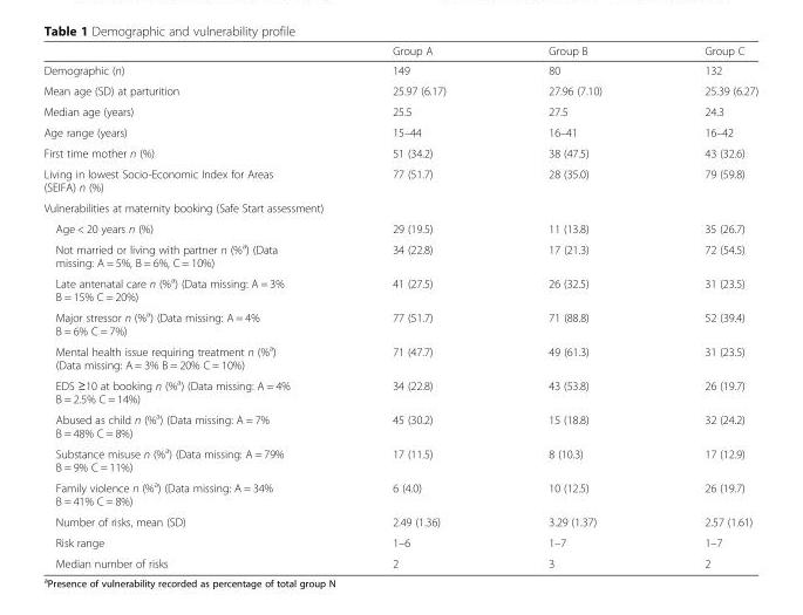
<table><thead><tr><td></td><td>Group A</td><td>Group B</td><td>Group C</td></tr></thead><tbody><tr><td>Demographic (n)</td><td>149</td><td>80</td><td>132</td></tr><tr><td>Mean age (SD) at parturition</td><td>25.97 (6.17)</td><td>27.96 (7.10)</td><td>25.39 (6.27)</td></tr><tr><td>Median age (years)</td><td>25.5</td><td>27.5</td><td>24.3</td></tr><tr><td>Age range (years)</td><td>15–44</td><td>16–41</td><td>16–42</td></tr><tr><td>First time mother n (%)</td><td>51 (34.2)</td><td>38 (47.5)</td><td>43 (32.6)</td></tr><tr><td>Living in lowest Socio-Economic Index for Areas (SEIFA) n (%)</td><td>77 (51.7)</td><td>28 (35.0)</td><td>79 (59.8)</td></tr><tr><td colspan="4">Vulnerabilities at maternity booking (Safe Start assessment)</td></tr><tr><td>Age &lt; 20 years n (%)</td><td>29 (19.5)</td><td>11 (13.8)</td><td>35 (26.7)</td></tr><tr><td>Not married or living with partner n (%<sup>a</sup>) (Data missing: A = 5%, B = 6%, C = 10%)</td><td>34 (22.8)</td><td>17 (21.3)</td><td>72 (54.5)</td></tr><tr><td>Late antenatal care n (%<sup>a</sup>) (Data missing: A = 3% B = 15% C = 20%)</td><td>41 (27.5)</td><td>26 (32.5)</td><td>31 (23.5)</td></tr><tr><td>Major stressor n (%<sup>a</sup>) (Data missing: A = 4% B = 6% C = 7%)</td><td>77 (51.7)</td><td>71 (88.8)</td><td>52 (39.4)</td></tr><tr><td>Mental health issue requiring treatment n (%<sup>a</sup>) (Data missing: A = 3% B = 20% C = 10%)</td><td>71 (47.7)</td><td>49 (61.3)</td><td>31 (23.5)</td></tr><tr><td>EDS ≥10 at booking n (%<sup>a</sup>) (Data missing: A = 4% B = 2.5% C = 14%)</td><td>34 (22.8)</td><td>43 (53.8)</td><td>26 (19.7)</td></tr><tr><td>Abused as child n (%<sup>a</sup>) (Data missing: A = 7% B = 48% C = 8%)</td><td>45 (30.2)</td><td>15 (18.8)</td><td>32 (24.2)</td></tr><tr><td>Substance misuse n (%<sup>a</sup>) (Data missing: A = 79% B = 9% C = 11%)</td><td>17 (11.5)</td><td>8 (10.3)</td><td>17 (12.9)</td></tr><tr><td>Family violence n (%<sup>a</sup>) (Data missing: A = 34% B = 41% C = 8%)</td><td>6 (4.0)</td><td>10 (12.5)</td><td>26 (19.7)</td></tr><tr><td>Number of risks, mean (SD)</td><td>2.49 (1.36)</td><td>3.29 (1.37)</td><td>2.57 (1.61)</td></tr><tr><td>Risk range</td><td>1–6</td><td>1–7</td><td>1–7</td></tr><tr><td>Median number of risks</td><td>2</td><td>3</td><td>2</td></tr></tbody></table>